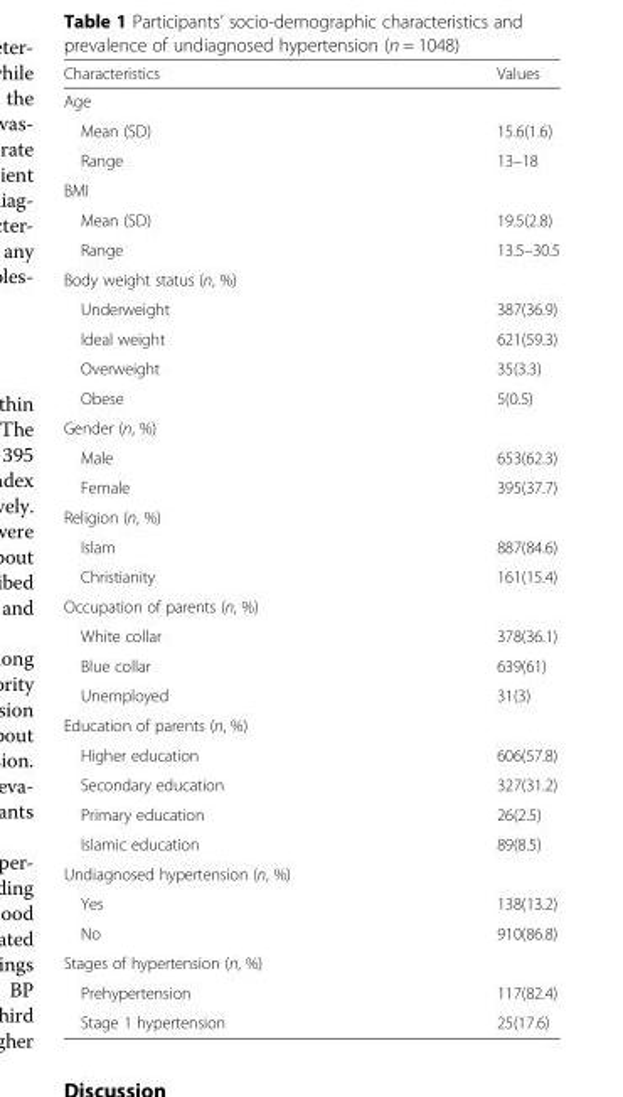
<table><thead><tr><td>Characteristics</td><td>Values</td></tr></thead><tbody><tr><td colspan="2">Age</td></tr><tr><td>Mean (SD)</td><td>15.6(1.6)</td></tr><tr><td>Range</td><td>13–18</td></tr><tr><td colspan="2">BMI</td></tr><tr><td>Mean (SD)</td><td>19.5(2.8)</td></tr><tr><td>Range</td><td>13.5–30.5</td></tr><tr><td colspan="2">Body weight status (n, %)</td></tr><tr><td>Underweight</td><td>387(36.9)</td></tr><tr><td>Ideal weight</td><td>621(59.3)</td></tr><tr><td>Overweight</td><td>35(3.3)</td></tr><tr><td>Obese</td><td>5(0.5)</td></tr><tr><td colspan="2">Gender (n, %)</td></tr><tr><td>Male</td><td>653(62.3)</td></tr><tr><td>Female</td><td>395(37.7)</td></tr><tr><td colspan="2">Religion (n, %)</td></tr><tr><td>Islam</td><td>887(84.6)</td></tr><tr><td>Christianity</td><td>161(15.4)</td></tr><tr><td colspan="2">Occupation of parents (n, %)</td></tr><tr><td>White collar</td><td>378(36.1)</td></tr><tr><td>Blue collar</td><td>639(61)</td></tr><tr><td>Unemployed</td><td>31(3)</td></tr><tr><td colspan="2">Education of parents (n, %)</td></tr><tr><td>Higher education</td><td>606(57.8)</td></tr><tr><td>Secondary education</td><td>327(31.2)</td></tr><tr><td>Primary education</td><td>26(2.5)</td></tr><tr><td>Islamic education</td><td>89(8.5)</td></tr><tr><td colspan="2">Undiagnosed hypertension (n, %)</td></tr><tr><td>Yes</td><td>138(13.2)</td></tr><tr><td>No</td><td>910(86.8)</td></tr><tr><td colspan="2">Stages of hypertension (n, %)</td></tr><tr><td>Prehypertension</td><td>117(82.4)</td></tr><tr><td>Stage 1 hypertension</td><td>25(17.6)</td></tr></tbody></table>